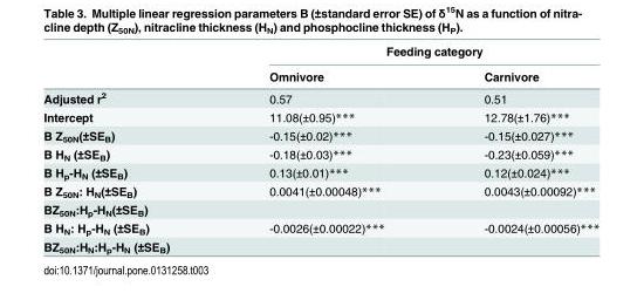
<table><thead><tr><td rowspan="2"></td><td colspan="2">Feeding category</td></tr><tr><td>Omnivore</td><td>Carnivore</td></tr></thead><tbody><tr><td>Adjusted r2</td><td>0.57</td><td>0.51</td></tr><tr><td>Intercept</td><td>11.08(±0.95)***</td><td>12.78(±1.76)***</td></tr><tr><td>B Z50N(±SEB)</td><td>-0.15(±0.02)***</td><td>-0.15(±0.027)***</td></tr><tr><td>B HN (±SEB)</td><td>-0.18(±0.03)***</td><td>-0.23(±0.059)***</td></tr><tr><td>B Hp-HN (±SEB)</td><td>0.13(±0.01)***</td><td>0.12(±0.024)***</td></tr><tr><td>B Z50N: HN(±SEB)</td><td>0.0041(±0.00048)***</td><td>0.0043(±0.00092)***</td></tr><tr><td colspan="3">BZ50N:Hp-HN(±SEB)</td></tr><tr><td>B HN: Hp-HN (±SEB)</td><td>-0.0026(±0.00022)***</td><td>-0.0024(±0.00056)***</td></tr><tr><td>BZ50N:HN:Hp-HN (±SEB)</td><td></td><td></td></tr></tbody></table>